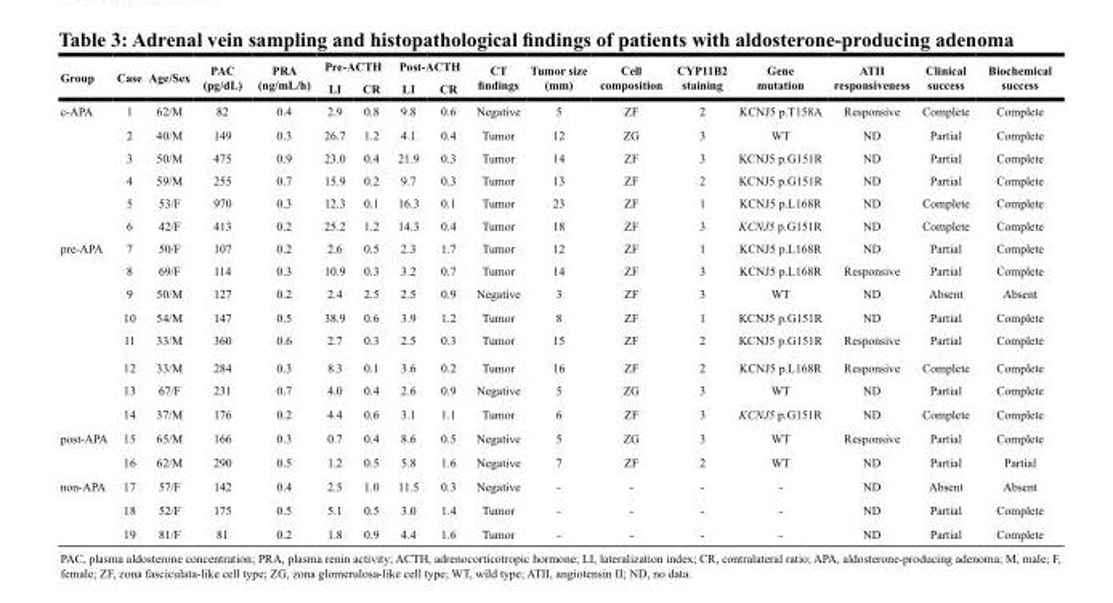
<table><thead><tr><td rowspan="2">Group</td><td rowspan="2">Case</td><td rowspan="2">Age/Sex</td><td rowspan="2">PAC (pg/dL)</td><td rowspan="2">PRA (ng/mL/h)</td><td colspan="2">Pre-ACTH</td><td colspan="2">Post-ACTH</td><td rowspan="2">CT findings</td><td rowspan="2">Tumor size (mm)</td><td rowspan="2">Cell composition</td><td rowspan="2">CYP11B2 staining</td><td rowspan="2">Gene mutation</td><td rowspan="2">ATII responsiveness</td><td rowspan="2">Clinical success</td><td rowspan="2">Biochemical success</td></tr><tr><td>LI</td><td>CR</td><td>LI</td><td>CR</td></tr></thead><tbody><tr><td rowspan="6">c-APA</td><td>1</td><td>62/M</td><td>82</td><td>0.4</td><td>2.9</td><td>0.8</td><td>9.8</td><td>0.6</td><td>Negative</td><td>5</td><td>ZF</td><td>2</td><td>KCNJ5 p.T158A</td><td>Responsive</td><td>Complete</td><td>Complete</td></tr><tr><td>2</td><td>40/M</td><td>149</td><td>0.3</td><td>26.7</td><td>1.2</td><td>4.1</td><td>0.4</td><td>Tumor</td><td>12</td><td>ZG</td><td>3</td><td>WT</td><td>ND</td><td>Partial</td><td>Complete</td></tr><tr><td>3</td><td>50/M</td><td>475</td><td>0.9</td><td>23.0</td><td>0.4</td><td>21.9</td><td>0.3</td><td>Tumor</td><td>14</td><td>ZF</td><td>3</td><td>KCNJ5 p.G151R</td><td>ND</td><td>Partial</td><td>Complete</td></tr><tr><td>4</td><td>59/M</td><td>255</td><td>0.7</td><td>15.9</td><td>0.2</td><td>9.7</td><td>0.3</td><td>Tumor</td><td>13</td><td>ZF</td><td>2</td><td>KCNJ5 p.G151R</td><td>ND</td><td>Partial</td><td>Complete</td></tr><tr><td>5</td><td>53/F</td><td>970</td><td>0.3</td><td>12.3</td><td>0.1</td><td>16.3</td><td>0.1</td><td>Tumor</td><td>23</td><td>ZF</td><td>1</td><td>KCNJ5 p.L168R</td><td>ND</td><td>Complete</td><td>Complete</td></tr><tr><td>6</td><td>42/F</td><td>413</td><td>0.2</td><td>25.2</td><td>1.2</td><td>14.3</td><td>0.4</td><td>Tumor</td><td>18</td><td>ZF</td><td>3</td><td>KCNJ5 p.G151R</td><td>ND</td><td>Complete</td><td>Complete</td></tr><tr><td rowspan="8">pre-APA</td><td>7</td><td>50/F</td><td>107</td><td>0.2</td><td>2.6</td><td>0.5</td><td>2.3</td><td>1.7</td><td>Tumor</td><td>12</td><td>ZF</td><td>1</td><td>KCNJ5 p.L168R</td><td>ND</td><td>Partial</td><td>Complete</td></tr><tr><td>8</td><td>69/F</td><td>114</td><td>0.3</td><td>10.9</td><td>0.3</td><td>3.2</td><td>0.7</td><td>Tumor</td><td>14</td><td>ZF</td><td>3</td><td>KCNJ5 p.L168R</td><td>Responsive</td><td>Partial</td><td>Complete</td></tr><tr><td>9</td><td>50/M</td><td>127</td><td>0.2</td><td>2.4</td><td>2.5</td><td>2.5</td><td>0.9</td><td>Negative</td><td>3</td><td>ZF</td><td>3</td><td>WT</td><td>ND</td><td>Absent</td><td>Absent</td></tr><tr><td>10</td><td>54/M</td><td>147</td><td>0.5</td><td>38.9</td><td>0.6</td><td>3.9</td><td>1.2</td><td>Tumor</td><td>8</td><td>ZF</td><td>1</td><td>KCNJ5 p.G151R</td><td>ND</td><td>Partial</td><td>Complete</td></tr><tr><td>11</td><td>33/M</td><td>360</td><td>0.6</td><td>2.7</td><td>0.3</td><td>2.5</td><td>0.3</td><td>Tumor</td><td>15</td><td>ZF</td><td>2</td><td>KCNJ5 p.G151R</td><td>Responsive</td><td>Partial</td><td>Complete</td></tr><tr><td>12</td><td>33/M</td><td>284</td><td>0.3</td><td>8.3</td><td>0.1</td><td>3.6</td><td>0.2</td><td>Tumor</td><td>16</td><td>ZF</td><td>2</td><td>KCNJ5 p.L168R</td><td>Responsive</td><td>Complete</td><td>Complete</td></tr><tr><td>13</td><td>67/F</td><td>231</td><td>0.7</td><td>4.0</td><td>0.4</td><td>2.6</td><td>0.9</td><td>Negative</td><td>5</td><td>ZG</td><td>3</td><td>WT</td><td>ND</td><td>Partial</td><td>Complete</td></tr><tr><td>14</td><td>37/M</td><td>176</td><td>0.2</td><td>4.4</td><td>0.6</td><td>3.1</td><td>1.1</td><td>Tumor</td><td>6</td><td>ZF</td><td>3</td><td>KCNJ5 p.G151R</td><td>ND</td><td>Complete</td><td>Complete</td></tr><tr><td rowspan="2">post-APA</td><td>15</td><td>65/M</td><td>166</td><td>0.3</td><td>0.7</td><td>0.4</td><td>8.6</td><td>0.5</td><td>Negative</td><td>5</td><td>ZG</td><td>3</td><td>WT</td><td>Responsive</td><td>Partial</td><td>Complete</td></tr><tr><td>16</td><td>62/M</td><td>290</td><td>0.5</td><td>1.2</td><td>0.5</td><td>5.8</td><td>1.6</td><td>Negative</td><td>7</td><td>ZF</td><td>2</td><td>WT</td><td>ND</td><td>Partial</td><td>Partial</td></tr><tr><td rowspan="3">non-APA</td><td>17</td><td>57/F</td><td>142</td><td>0.4</td><td>2.5</td><td>1.0</td><td>11.5</td><td>0.3</td><td>Negative</td><td>-</td><td>-</td><td>-</td><td>-</td><td>ND</td><td>Absent</td><td>Absent</td></tr><tr><td>18</td><td>52/F</td><td>175</td><td>0.5</td><td>5.1</td><td>0.5</td><td>3.0</td><td>1.4</td><td>Tumor</td><td>-</td><td>-</td><td>-</td><td>-</td><td>ND</td><td>Partial</td><td>Complete</td></tr><tr><td>19</td><td>81/F</td><td>81</td><td>0.2</td><td>1.8</td><td>0.9</td><td>4.4</td><td>1.6</td><td>Tumor</td><td>-</td><td>-</td><td>-</td><td>-</td><td>ND</td><td>Partial</td><td>Complete</td></tr></tbody></table>